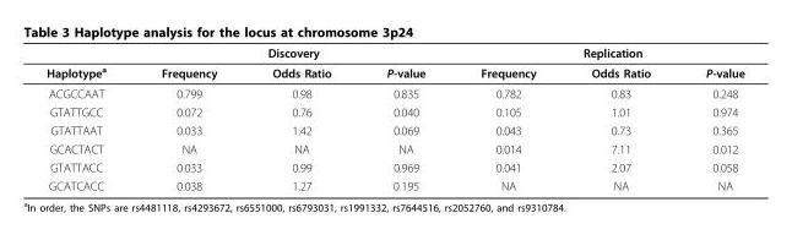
<table><thead><tr><td rowspan="2">Haplotype<sup>a</sup></td><td colspan="3">Discovery</td><td colspan="3">Replication</td></tr><tr><td>Frequency</td><td>Odds Ratio</td><td>P-value</td><td>Frequency</td><td>Odds Ratio</td><td>P-value</td></tr></thead><tbody><tr><td>ACGCCAAT</td><td>0.799</td><td>0.98</td><td>0.835</td><td>0.782</td><td>0.83</td><td>0.248</td></tr><tr><td>GTATTGCC</td><td>0.072</td><td>0.76</td><td>0.040</td><td>0.105</td><td>1.01</td><td>0.974</td></tr><tr><td>GTATTAAT</td><td>0.033</td><td>1.42</td><td>0.069</td><td>0.043</td><td>0.73</td><td>0.365</td></tr><tr><td>GCACTACT</td><td>NA</td><td>NA</td><td>NA</td><td>0.014</td><td>7.11</td><td>0.012</td></tr><tr><td>GTATTACC</td><td>0.033</td><td>0.99</td><td>0.969</td><td>0.041</td><td>2.07</td><td>0.058</td></tr><tr><td>GCATCACC</td><td>0.038</td><td>1.27</td><td>0.195</td><td>NA</td><td>NA</td><td>NA</td></tr></tbody></table>